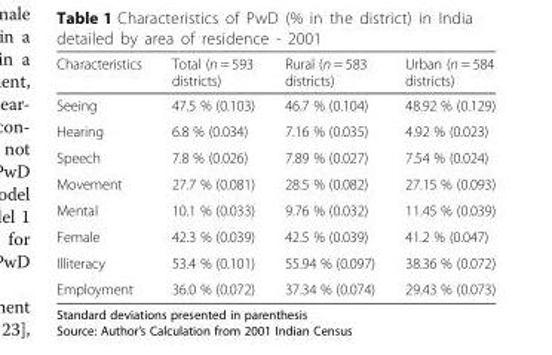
<table><thead><tr><td>Characteristics</td><td>Total (n = 593 districts)</td><td>Rural (n = 583 districts)</td><td>Urban (n = 584 districts)</td></tr></thead><tbody><tr><td>Seeing</td><td>47.5 % (0.103)</td><td>46.7 % (0.104)</td><td>48.92 % (0.129)</td></tr><tr><td>Hearing</td><td>6.8 % (0.034)</td><td>7.16 % (0.035)</td><td>4.92 % (0.023)</td></tr><tr><td>Speech</td><td>7.8 % (0.026)</td><td>7.89 % (0.027)</td><td>7.54 % (0.024)</td></tr><tr><td>Movement</td><td>27.7 % (0.081)</td><td>28.5 % (0.082)</td><td>27.15 % (0.093)</td></tr><tr><td>Mental</td><td>10.1 % (0.033)</td><td>9.76 % (0.032)</td><td>11.45 % (0.039)</td></tr><tr><td>Female</td><td>42.3 % (0.039)</td><td>42.5 % (0.039)</td><td>41.2 % (0.047)</td></tr><tr><td>Illiteracy</td><td>53.4 % (0.101)</td><td>55.94 % (0.097)</td><td>38.36 % (0.072)</td></tr><tr><td>Employment</td><td>36.0 % (0.072)</td><td>37.34 % (0.074)</td><td>29.43 % (0.073)</td></tr></tbody></table>